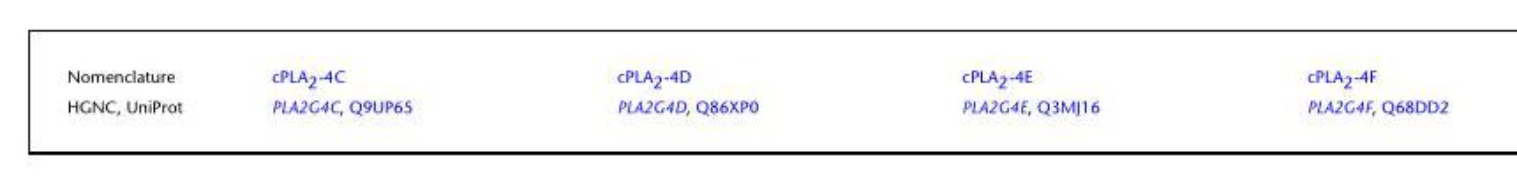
<table><tbody><tr><td>Nomenclature</td><td>cPLA<sub>2</sub>-4C</td><td>cPLA<sub>2</sub>-4D</td><td>cPLA<sub>2</sub>-4E</td><td>cPLA<sub>2</sub>-4F</td></tr><tr><td>HGNC, UniProt</td><td>PLA2G4C, Q9UP65</td><td>PLA2G4D, Q86XP0</td><td>PLA2G4E, Q3MJ16</td><td>PLA2G4F, Q68DD2</td></tr></tbody></table>